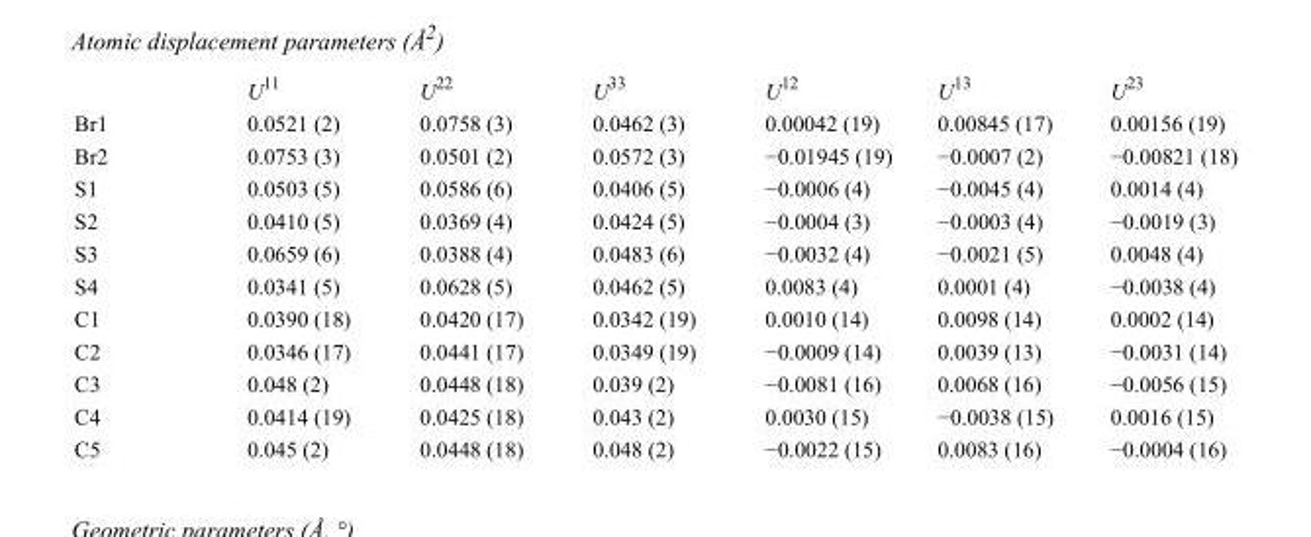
<table><thead><tr><td></td><td>U<sup>11</sup></td><td>U<sup>22</sup></td><td>U<sup>33</sup></td><td>U<sup>12</sup></td><td>U<sup>13</sup></td><td>U<sup>23</sup></td></tr></thead><tbody><tr><td>Br1</td><td>0.0521 (2)</td><td>0.0758 (3)</td><td>0.0462 (3)</td><td>0.00042 (19)</td><td>0.00845 (17)</td><td>0.00156 (19)</td></tr><tr><td>Br2</td><td>0.0753 (3)</td><td>0.0501 (2)</td><td>0.0572 (3)</td><td>−0.01945 (19)</td><td>−0.0007 (2)</td><td>−0.00821 (18)</td></tr><tr><td>S1</td><td>0.0503 (5)</td><td>0.0586 (6)</td><td>0.0406 (5)</td><td>−0.0006 (4)</td><td>−0.0045 (4)</td><td>0.0014 (4)</td></tr><tr><td>S2</td><td>0.0410 (5)</td><td>0.0369 (4)</td><td>0.0424 (5)</td><td>−0.0004 (3)</td><td>−0.0003 (4)</td><td>−0.0019 (3)</td></tr><tr><td>S3</td><td>0.0659 (6)</td><td>0.0388 (4)</td><td>0.0483 (6)</td><td>−0.0032 (4)</td><td>−0.0021 (5)</td><td>0.0048 (4)</td></tr><tr><td>S4</td><td>0.0341 (5)</td><td>0.0628 (5)</td><td>0.0462 (5)</td><td>0.0083 (4)</td><td>0.0001 (4)</td><td>−0.0038 (4)</td></tr><tr><td>C1</td><td>0.0390 (18)</td><td>0.0420 (17)</td><td>0.0342 (19)</td><td>0.0010 (14)</td><td>0.0098 (14)</td><td>0.0002 (14)</td></tr><tr><td>C2</td><td>0.0346 (17)</td><td>0.0441 (17)</td><td>0.0349 (19)</td><td>−0.0009 (14)</td><td>0.0039 (13)</td><td>−0.0031 (14)</td></tr><tr><td>C3</td><td>0.048 (2)</td><td>0.0448 (18)</td><td>0.039 (2)</td><td>−0.0081 (16)</td><td>0.0068 (16)</td><td>−0.0056 (15)</td></tr><tr><td>C4</td><td>0.0414 (19)</td><td>0.0425 (18)</td><td>0.043 (2)</td><td>0.0030 (15)</td><td>−0.0038 (15)</td><td>0.0016 (15)</td></tr><tr><td>C5</td><td>0.045 (2)</td><td>0.0448 (18)</td><td>0.048 (2)</td><td>−0.0022 (15)</td><td>0.0083 (16)</td><td>−0.0004 (16)</td></tr></tbody></table>